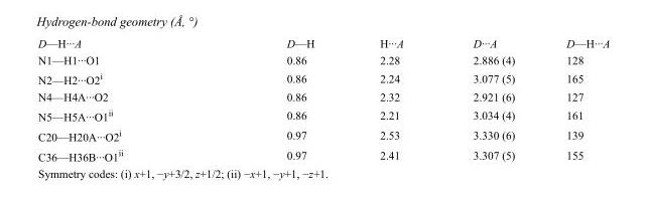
<table><tbody><tr><td>D—H···A</td><td>D—H</td><td>H···A</td><td>D···A</td><td>D—H···A</td></tr><tr><td>N1—H1···O1</td><td>0.86</td><td>2.28</td><td>2.886 (4)</td><td>128</td></tr><tr><td>N2—H2···O2<sup>i</sup></td><td>0.86</td><td>2.24</td><td>3.077 (5)</td><td>165</td></tr><tr><td>N4—H4A···O2</td><td>0.86</td><td>2.32</td><td>2.921 (6)</td><td>127</td></tr><tr><td>N5—H5A···O1<sup>ii</sup></td><td>0.86</td><td>2.21</td><td>3.034 (4)</td><td>161</td></tr><tr><td>C20—H20A···O2<sup>i</sup></td><td>0.97</td><td>2.53</td><td>3.330 (6)</td><td>139</td></tr><tr><td>C36—H36B···O1<sup>ii</sup></td><td>0.97</td><td>2.41</td><td>3.307 (5)</td><td>155</td></tr></tbody></table>